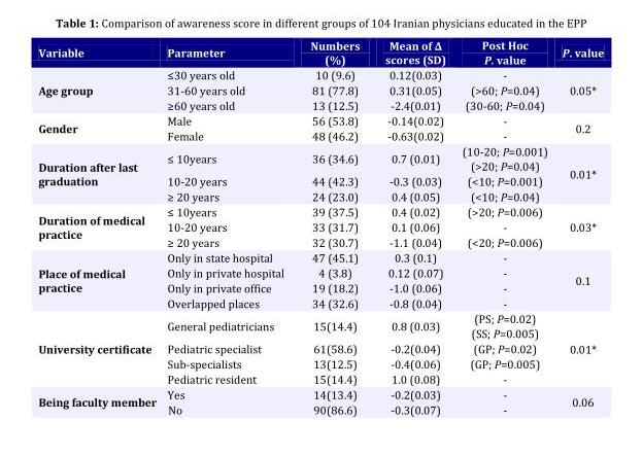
<table><tbody><tr><td>Variable</td><td>Parameter</td><td>Numbers (%)</td><td>Mean of ∆ scores (SD)</td><td>Post Hoc P. value</td><td>P. value</td></tr><tr><td rowspan="3">Age group</td><td>≤30 years old</td><td>10 (9.6)</td><td>0.12(0.03)</td><td>-</td><td rowspan="3">0.05*</td></tr><tr><td>31-60 years old</td><td>81 (77.8)</td><td>0.31(0.05)</td><td>(&gt;60; P=0.04)</td></tr><tr><td>≥60 years old</td><td>13 (12.5)</td><td>-2.4(0.01)</td><td>(30-60; P=0.04)</td></tr><tr><td rowspan="2">Gender</td><td>Male</td><td>56 (53.8)</td><td>-0.14(0.02)</td><td>-</td><td rowspan="2">0.2</td></tr><tr><td>Female</td><td>48 (46.2)</td><td>-0.63(0.02)</td><td>-</td></tr><tr><td rowspan="3">Duration after last graduation</td><td>≤ 10years</td><td>36 (34.6)</td><td>0.7 (0.01)</td><td>(10-20; P=0.001) (&gt;20; P=0.04)</td><td rowspan="3">0.01*</td></tr><tr><td>10-20 years</td><td>44 (42.3)</td><td>-0.3 (0.03)</td><td>(&lt;10; P=0.001)</td></tr><tr><td>≥ 20 years</td><td>24 (23.0)</td><td>0.4 (0.05)</td><td>(&lt;10; P=0.04)</td></tr><tr><td rowspan="3">Duration of medical practice</td><td>≤ 10years</td><td>39 (37.5)</td><td>0.4 (0.02)</td><td>(&gt;20; P=0.006)</td><td rowspan="3">0.03*</td></tr><tr><td>10-20 years</td><td>33 (31.7)</td><td>0.1 (0.06)</td><td>-</td></tr><tr><td>≥ 20 years</td><td>32 (30.7)</td><td>-1.1 (0.04)</td><td>(&lt;20; P=0.006)</td></tr><tr><td rowspan="4">Place of medical practice</td><td>Only in state hospital</td><td>47 (45.1)</td><td>0.3 (0.1)</td><td>-</td><td rowspan="4">0.1</td></tr><tr><td>Only in private hospital</td><td>4 (3.8)</td><td>0.12 (0.07)</td><td>-</td></tr><tr><td>Only in private office</td><td>19 (18.2)</td><td>-1.0 (0.06)</td><td>-</td></tr><tr><td>Overlapped places</td><td>34 (32.6)</td><td>-0.8 (0.04)</td><td>-</td></tr><tr><td rowspan="4">University certificate</td><td>General pediatricians</td><td>15(14.4)</td><td>0.8 (0.03)</td><td>(PS; P=0.02) (SS; P=0.005)</td><td rowspan="4">0.01*</td></tr><tr><td>Pediatric specialist</td><td>61(58.6)</td><td>-0.2(0.04)</td><td>(GP; P=0.02)</td></tr><tr><td>Sub-specialists</td><td>13(12.5)</td><td>-0.4(0.06)</td><td>(GP; P=0.005)</td></tr><tr><td>Pediatric resident</td><td>15(14.4)</td><td>1.0 (0.08)</td><td>-</td></tr><tr><td rowspan="2">Being faculty member</td><td>Yes</td><td>14(13.4)</td><td>-0.2(0.03)</td><td>-</td><td rowspan="2">0.06</td></tr><tr><td>No</td><td>90(86.6)</td><td>-0.3(0.07)</td><td>-</td></tr></tbody></table>